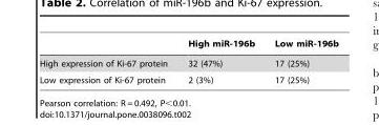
<table><thead><tr><td></td><td>High miR-196b</td><td>Low miR-196b</td></tr></thead><tbody><tr><td>High expression of Ki-67 protein</td><td>32 (47%)</td><td>17 (25%)</td></tr><tr><td>Low expression of Ki-67 protein</td><td>2 (3%)</td><td>17 (25%)</td></tr></tbody></table>